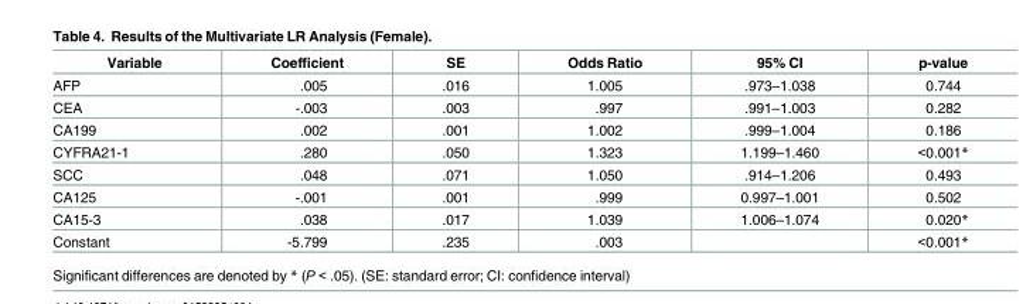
<table><thead><tr><td>Variable</td><td>Coefficient</td><td>SE</td><td>Odds Ratio</td><td>95% CI</td><td>p-value</td></tr></thead><tbody><tr><td>AFP</td><td>.005</td><td>.016</td><td>1.005</td><td>.973–1.038</td><td>0.744</td></tr><tr><td>CEA</td><td>-.003</td><td>.003</td><td>.997</td><td>.991–1.003</td><td>0.282</td></tr><tr><td>CA199</td><td>.002</td><td>.001</td><td>1.002</td><td>.999–1.004</td><td>0.186</td></tr><tr><td>CYFRA21-1</td><td>.280</td><td>.050</td><td>1.323</td><td>1.199–1.460</td><td>&lt;0.001*</td></tr><tr><td>SCC</td><td>.048</td><td>.071</td><td>1.050</td><td>.914–1.206</td><td>0.493</td></tr><tr><td>CA125</td><td>-.001</td><td>.001</td><td>.999</td><td>0.997–1.001</td><td>0.502</td></tr><tr><td>CA15-3</td><td>.038</td><td>.017</td><td>1.039</td><td>1.006–1.074</td><td>0.020*</td></tr><tr><td>Constant</td><td>-5.799</td><td>.235</td><td>.003</td><td></td><td>&lt;0.001*</td></tr></tbody></table>